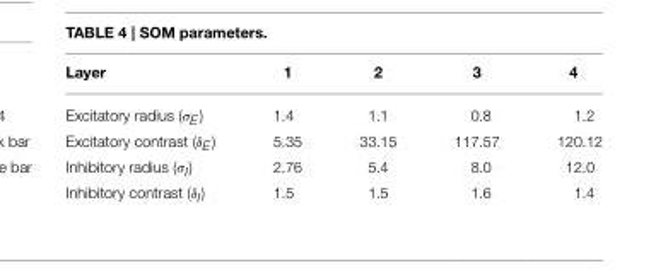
<table><thead><tr><td>Layer</td><td>1</td><td>2</td><td>3</td><td>4</td></tr></thead><tbody><tr><td>Excitatory radius (σ<sub>E</sub>)</td><td>1.4</td><td>1.1</td><td>0.8</td><td>1.2</td></tr><tr><td>Excitatory contrast (δ<sub>E</sub>)</td><td>5.35</td><td>33.15</td><td>117.57</td><td>120.12</td></tr><tr><td>Inhibitory radius (σ<sub>I</sub>)</td><td>2.76</td><td>5.4</td><td>8.0</td><td>12.0</td></tr><tr><td>Inhibitory contrast (δ<sub>I</sub>)</td><td>1.5</td><td>1.5</td><td>1.6</td><td>1.4</td></tr></tbody></table>